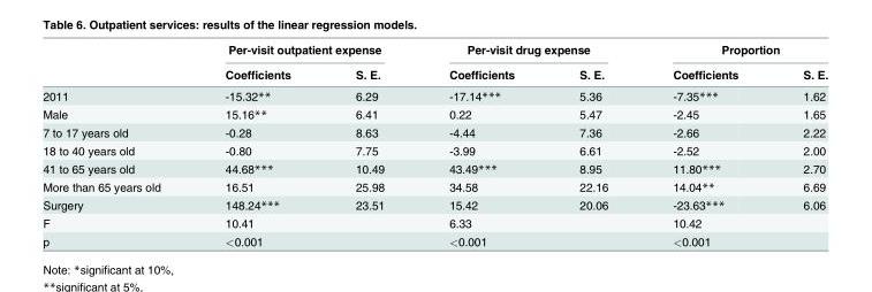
<table><thead><tr><td rowspan="2"></td><td colspan="2">Per-visit outpatient expense</td><td colspan="2">Per-visit drug expense</td><td colspan="2">Proportion</td></tr><tr><td>Coefficients</td><td>S. E.</td><td>Coefficients</td><td>S. E.</td><td>Coefficients</td><td>S. E.</td></tr></thead><tbody><tr><td>2011</td><td>-15.32**</td><td>6.29</td><td>-17.14***</td><td>5.36</td><td>-7.35***</td><td>1.62</td></tr><tr><td>Male</td><td>15.16**</td><td>6.41</td><td>0.22</td><td>5.47</td><td>-2.45</td><td>1.65</td></tr><tr><td>7 to 17 years old</td><td>-0.28</td><td>8.63</td><td>-4.44</td><td>7.36</td><td>-2.66</td><td>2.22</td></tr><tr><td>18 to 40 years old</td><td>-0.80</td><td>7.75</td><td>-3.99</td><td>6.61</td><td>-2.52</td><td>2.00</td></tr><tr><td>41 to 65 years old</td><td>44.68***</td><td>10.49</td><td>43.49***</td><td>8.95</td><td>11.80***</td><td>2.70</td></tr><tr><td>More than 65 years old</td><td>16.51</td><td>25.98</td><td>34.58</td><td>22.16</td><td>14.04**</td><td>6.69</td></tr><tr><td>Surgery</td><td>148.24***</td><td>23.51</td><td>15.42</td><td>20.06</td><td>-23.63***</td><td>6.06</td></tr><tr><td>F</td><td colspan="2">10.41</td><td colspan="2">6.33</td><td colspan="2">10.42</td></tr><tr><td>p</td><td colspan="2">&lt;0.001</td><td colspan="2">&lt;0.001</td><td colspan="2">&lt;0.001</td></tr></tbody></table>